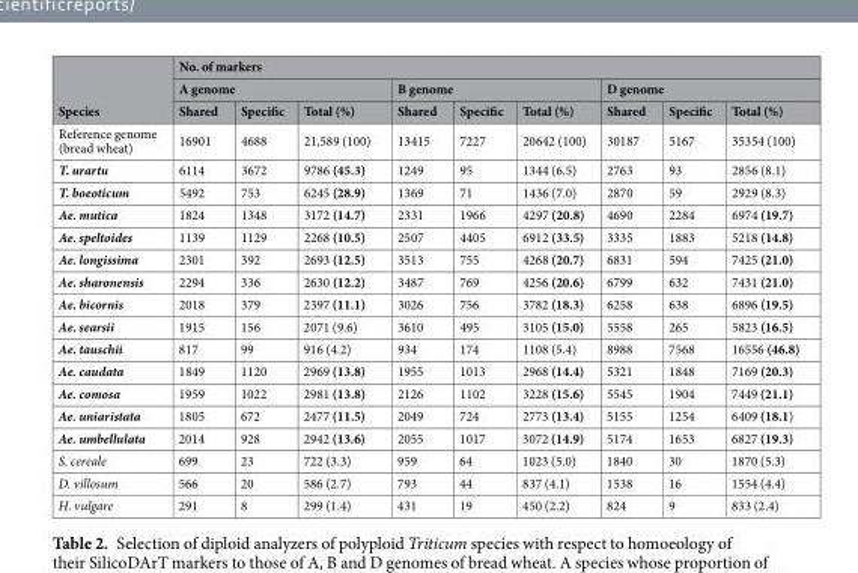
<table><thead><tr><td rowspan="3">Species</td><td colspan="9">No. of markers</td></tr><tr><td colspan="3">A genome</td><td colspan="3">B genome</td><td colspan="3">D genome</td></tr><tr><td>Shared</td><td>Specific</td><td>Total (%)</td><td>Shared</td><td>Specific</td><td>Total (%)</td><td>Shared</td><td>Specific</td><td>Total (%)</td></tr></thead><tbody><tr><td>Reference genome (bread wheat)</td><td>16901</td><td>4688</td><td>21,589 (100)</td><td>13415</td><td>7227</td><td>20642 (100)</td><td>30187</td><td>5167</td><td>35354 (100)</td></tr><tr><td>T. urartu</td><td>6114</td><td>3672</td><td>9786 (45.3)</td><td>1249</td><td>95</td><td>1344 (6.5)</td><td>2763</td><td>93</td><td>2856 (8.1)</td></tr><tr><td>T. boeoticum</td><td>5492</td><td>753</td><td>6245 (28.9)</td><td>1369</td><td>71</td><td>1436 (7.0)</td><td>2870</td><td>59</td><td>2929 (8.3)</td></tr><tr><td>Ae. mutica</td><td>1824</td><td>1348</td><td>3172 (14.7)</td><td>2331</td><td>1966</td><td>4297 (20.8)</td><td>4690</td><td>2284</td><td>6974 (19.7)</td></tr><tr><td>Ae. speltoides</td><td>1139</td><td>1129</td><td>2268 (10.5)</td><td>2507</td><td>4405</td><td>6912 (33.5)</td><td>3335</td><td>1883</td><td>5218 (14.8)</td></tr><tr><td>Ae. longissima</td><td>2301</td><td>392</td><td>2693 (12.5)</td><td>3513</td><td>755</td><td>4268 (20.7)</td><td>6831</td><td>594</td><td>7425 (21.0)</td></tr><tr><td>Ae. sharonensis</td><td>2294</td><td>336</td><td>2630 (12.2)</td><td>3487</td><td>769</td><td>4256 (20.6)</td><td>6799</td><td>632</td><td>7431 (21.0)</td></tr><tr><td>Ae. bicornis</td><td>2018</td><td>379</td><td>2397 (11.1)</td><td>3026</td><td>756</td><td>3782 (18.3)</td><td>6258</td><td>638</td><td>6896 (19.5)</td></tr><tr><td>Ae. searsii</td><td>1915</td><td>156</td><td>2071 (9.6)</td><td>3610</td><td>495</td><td>3105 (15.0)</td><td>5558</td><td>265</td><td>5823 (16.5)</td></tr><tr><td>Ae. tauschii</td><td>817</td><td>99</td><td>916 (4.2)</td><td>934</td><td>174</td><td>1108 (5.4)</td><td>8988</td><td>7568</td><td>16556 (46.8)</td></tr><tr><td>Ae. caudata</td><td>1849</td><td>1120</td><td>2969 (13.8)</td><td>1955</td><td>1013</td><td>2968 (14.4)</td><td>5321</td><td>1848</td><td>7169 (20.3)</td></tr><tr><td>Ae. comosa</td><td>1959</td><td>1022</td><td>2981 (13.8)</td><td>2126</td><td>1102</td><td>3228 (15.6)</td><td>5545</td><td>1904</td><td>7449 (21.1)</td></tr><tr><td>Ae. uniaristata</td><td>1805</td><td>672</td><td>2477 (11.5)</td><td>2049</td><td>724</td><td>2773 (13.4)</td><td>5155</td><td>1254</td><td>6409 (18.1)</td></tr><tr><td>Ae. umbellulata</td><td>2014</td><td>928</td><td>2942 (13.6)</td><td>2055</td><td>1017</td><td>3072 (14.9)</td><td>5174</td><td>1653</td><td>6827 (19.3)</td></tr><tr><td>S. cereale</td><td>699</td><td>23</td><td>722 (3.3)</td><td>959</td><td>64</td><td>1023 (5.0)</td><td>1840</td><td>30</td><td>1870 (5.3)</td></tr><tr><td>D. villosum</td><td>566</td><td>20</td><td>586 (2.7)</td><td>793</td><td>44</td><td>837 (4.1)</td><td>1538</td><td>16</td><td>1554 (4.4)</td></tr><tr><td>H. vulgare</td><td>291</td><td>8</td><td>299 (1.4)</td><td>431</td><td>19</td><td>450 (2.2)</td><td>824</td><td>9</td><td>833 (2.4)</td></tr></tbody></table>